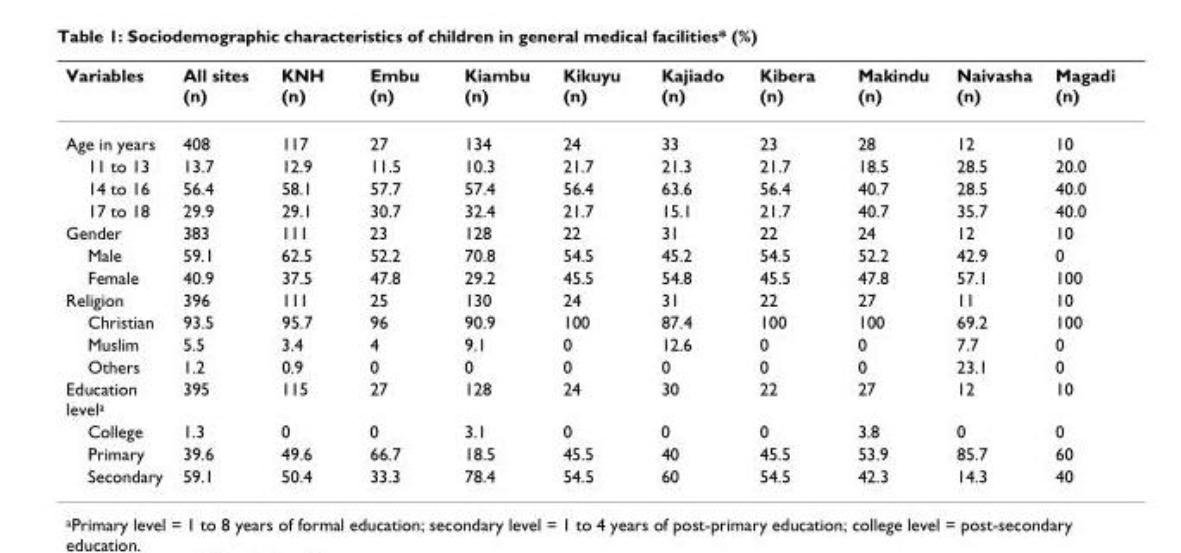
<table><thead><tr><td>Variables</td><td>All sites (n)</td><td>KNH (n)</td><td>Embu (n)</td><td>Kiambu (n)</td><td>Kikuyu (n)</td><td>Kajiado (n)</td><td>Kibera (n)</td><td>Makindu (n)</td><td>Naivasha (n)</td><td>Magadi (n)</td></tr></thead><tbody><tr><td>Age in years</td><td>408</td><td>117</td><td>27</td><td>134</td><td>24</td><td>33</td><td>23</td><td>28</td><td>12</td><td>10</td></tr><tr><td>11 to 13</td><td>13.7</td><td>12.9</td><td>11.5</td><td>10.3</td><td>21.7</td><td>21.3</td><td>21.7</td><td>18.5</td><td>28.5</td><td>20.0</td></tr><tr><td>14 to 16</td><td>56.4</td><td>58.1</td><td>57.7</td><td>57.4</td><td>56.4</td><td>63.6</td><td>56.4</td><td>40.7</td><td>28.5</td><td>40.0</td></tr><tr><td>17 to 18</td><td>29.9</td><td>29.1</td><td>30.7</td><td>32.4</td><td>21.7</td><td>15.1</td><td>21.7</td><td>40.7</td><td>35.7</td><td>40.0</td></tr><tr><td>Gender</td><td>383</td><td>111</td><td>23</td><td>128</td><td>22</td><td>31</td><td>22</td><td>24</td><td>12</td><td>10</td></tr><tr><td>Male</td><td>59.1</td><td>62.5</td><td>52.2</td><td>70.8</td><td>54.5</td><td>45.2</td><td>54.5</td><td>52.2</td><td>42.9</td><td>0</td></tr><tr><td>Female</td><td>40.9</td><td>37.5</td><td>47.8</td><td>29.2</td><td>45.5</td><td>54.8</td><td>45.5</td><td>47.8</td><td>57.1</td><td>100</td></tr><tr><td>Religion</td><td>396</td><td>111</td><td>25</td><td>130</td><td>24</td><td>31</td><td>22</td><td>27</td><td>11</td><td>10</td></tr><tr><td>Christian</td><td>93.5</td><td>95.7</td><td>96</td><td>90.9</td><td>100</td><td>87.4</td><td>100</td><td>100</td><td>69.2</td><td>100</td></tr><tr><td>Muslim</td><td>5.5</td><td>3.4</td><td>4</td><td>9.1</td><td>0</td><td>12.6</td><td>0</td><td>0</td><td>7.7</td><td>0</td></tr><tr><td>Others</td><td>1.2</td><td>0.9</td><td>0</td><td>0</td><td>0</td><td>0</td><td>0</td><td>0</td><td>23.1</td><td>0</td></tr><tr><td>Education level<sup>a</sup></td><td>395</td><td>115</td><td>27</td><td>128</td><td>24</td><td>30</td><td>22</td><td>27</td><td>12</td><td>10</td></tr><tr><td>College</td><td>1.3</td><td>0</td><td>0</td><td>3.1</td><td>0</td><td>0</td><td>0</td><td>3.8</td><td>0</td><td>0</td></tr><tr><td>Primary</td><td>39.6</td><td>49.6</td><td>66.7</td><td>18.5</td><td>45.5</td><td>40</td><td>45.5</td><td>53.9</td><td>85.7</td><td>60</td></tr><tr><td>Secondary</td><td>59.1</td><td>50.4</td><td>33.3</td><td>78.4</td><td>54.5</td><td>60</td><td>54.5</td><td>42.3</td><td>14.3</td><td>40</td></tr></tbody></table>